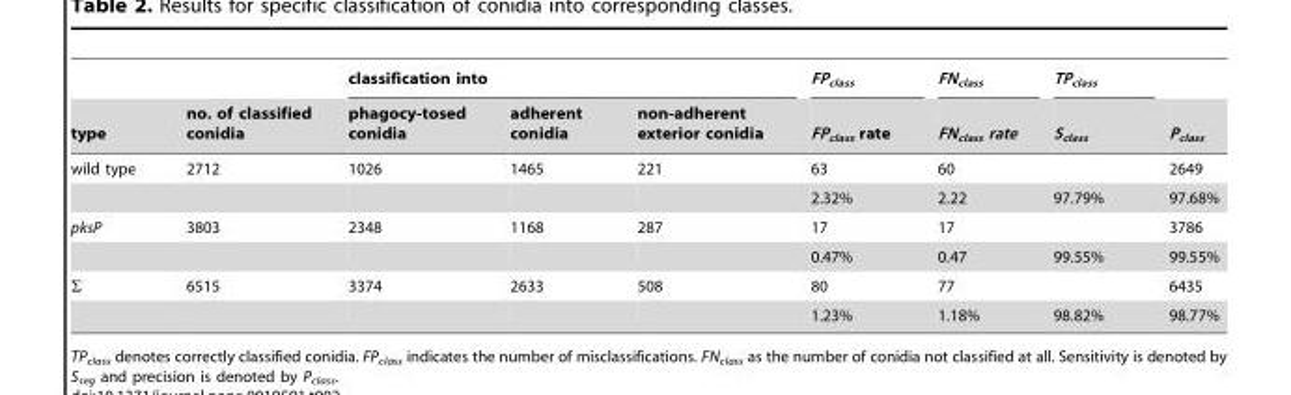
<table><thead><tr><td rowspan="2">type</td><td rowspan="2">no. of classified conidia</td><td colspan="3">classification into</td><td rowspan="2">FP<sub>class</sub> FP<sub>class</sub> rate</td><td rowspan="2">FN<sub>class</sub> FN<sub>class</sub> rate</td><td rowspan="2">TP<sub>class</sub> S<sub>class</sub></td><td rowspan="2">P<sub>class</sub></td></tr><tr><td>phagocy-tosed conidia</td><td>adherent conidia</td><td>non-adherent exterior conidia</td></tr></thead><tbody><tr><td rowspan="2">wild type</td><td>2712</td><td>1026</td><td>1465</td><td>221</td><td>63</td><td>60</td><td></td><td>2649</td></tr><tr><td></td><td></td><td></td><td></td><td>2.32%</td><td>2.22</td><td>97.79%</td><td>97.68%</td></tr><tr><td rowspan="2">pksP</td><td>3803</td><td>2348</td><td>1168</td><td>287</td><td>17</td><td>17</td><td></td><td>3786</td></tr><tr><td></td><td></td><td></td><td></td><td>0.47%</td><td>0.47</td><td>99.55%</td><td>99.55%</td></tr><tr><td rowspan="2">Σ</td><td>6515</td><td>3374</td><td>2633</td><td>508</td><td>80</td><td>77</td><td></td><td>6435</td></tr><tr><td></td><td></td><td></td><td></td><td>1.23%</td><td>1.18%</td><td>98.82%</td><td>98.77%</td></tr></tbody></table>